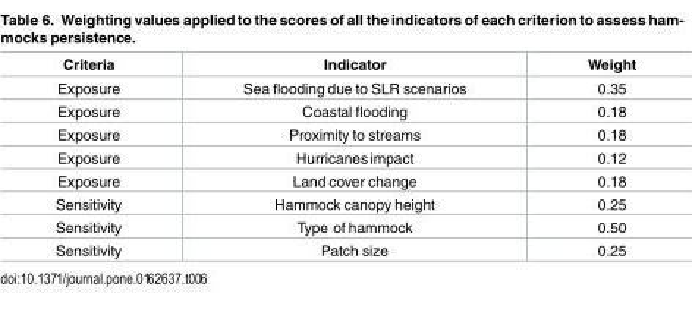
<table><thead><tr><td>Criteria</td><td>Indicator</td><td>Weight</td></tr></thead><tbody><tr><td>Exposure</td><td>Sea flooding due to SLR scenarios</td><td>0.35</td></tr><tr><td>Exposure</td><td>Coastal flooding</td><td>0.18</td></tr><tr><td>Exposure</td><td>Proximity to streams</td><td>0.18</td></tr><tr><td>Exposure</td><td>Hurricanes impact</td><td>0.12</td></tr><tr><td>Exposure</td><td>Land cover change</td><td>0.18</td></tr><tr><td>Sensitivity</td><td>Hammock canopy height</td><td>0.25</td></tr><tr><td>Sensitivity</td><td>Type of hammock</td><td>0.50</td></tr><tr><td>Sensitivity</td><td>Patch size</td><td>0.25</td></tr></tbody></table>